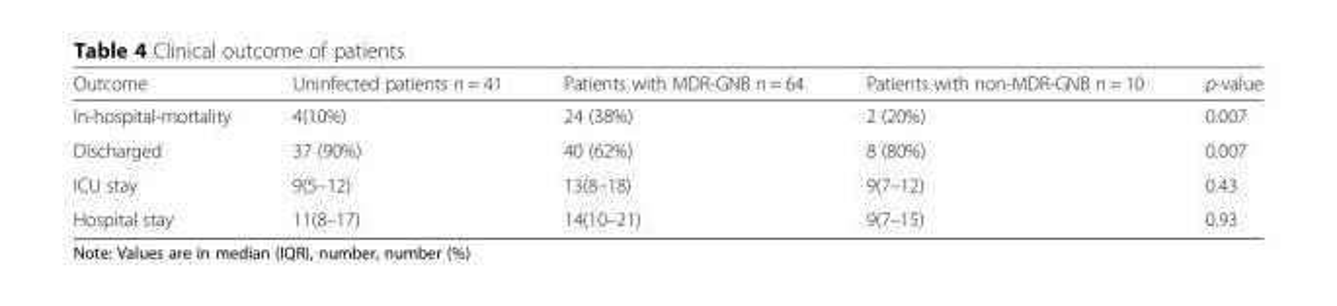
<table><thead><tr><td>Outcome</td><td>Uninfected patients n = 41</td><td>Patients with MDR-GNB n = 64</td><td>Patients with non-MDR-GNB n = 10</td><td>p-value</td></tr></thead><tbody><tr><td>In-hospital-mortality</td><td>4(10%)</td><td>24 (38%)</td><td>2 (20%)</td><td>0.007</td></tr><tr><td>Discharged</td><td>37 (90%)</td><td>40 (62%)</td><td>8 (80%)</td><td>0.007</td></tr><tr><td>ICU stay</td><td>9(5–12)</td><td>13(8–18)</td><td>9(7–12)</td><td>0.43</td></tr><tr><td>Hospital stay</td><td>11(8–17)</td><td>14(10–21)</td><td>9(7–15)</td><td>0.93</td></tr></tbody></table>